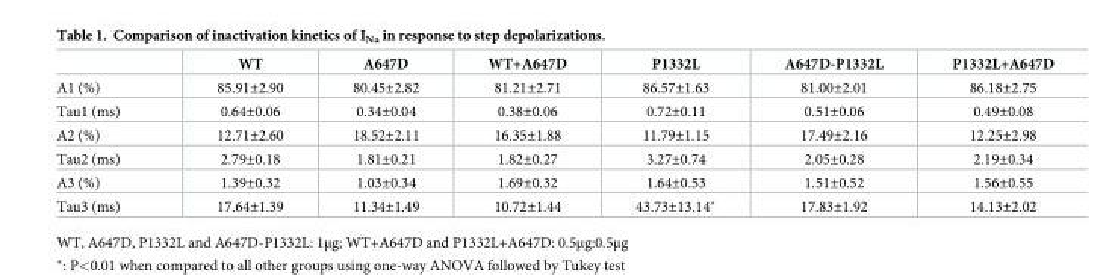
<table><thead><tr><td></td><td>WT</td><td>A647D</td><td>WT+A647D</td><td>P1332L</td><td>A647D-P1332L</td><td>P1332L+A647D</td></tr></thead><tbody><tr><td>A1 (%)</td><td>85.91±2.90</td><td>80.45±2.82</td><td>81.21±2.71</td><td>86.57±1.63</td><td>81.00±2.01</td><td>86.18±2.75</td></tr><tr><td>Tau1 (ms)</td><td>0.64±0.06</td><td>0.34±0.04</td><td>0.38±0.06</td><td>0.72±0.11</td><td>0.51±0.06</td><td>0.49±0.08</td></tr><tr><td>A2 (%)</td><td>12.71±2.60</td><td>18.52±2.11</td><td>16.35±1.88</td><td>11.79±1.15</td><td>17.49±2.16</td><td>12.25±2.98</td></tr><tr><td>Tau2 (ms)</td><td>2.79±0.18</td><td>1.81±0.21</td><td>1.82±0.27</td><td>3.27±0.74</td><td>2.05±0.28</td><td>2.19±0.34</td></tr><tr><td>A3 (%)</td><td>1.39±0.32</td><td>1.03±0.34</td><td>1.69±0.32</td><td>1.64±0.53</td><td>1.51±0.52</td><td>1.56±0.55</td></tr><tr><td>Tau3 (ms)</td><td>17.64±1.39</td><td>11.34±1.49</td><td>10.72±1.44</td><td>43.73±13.14*</td><td>17.83±1.92</td><td>14.13±2.02</td></tr></tbody></table>